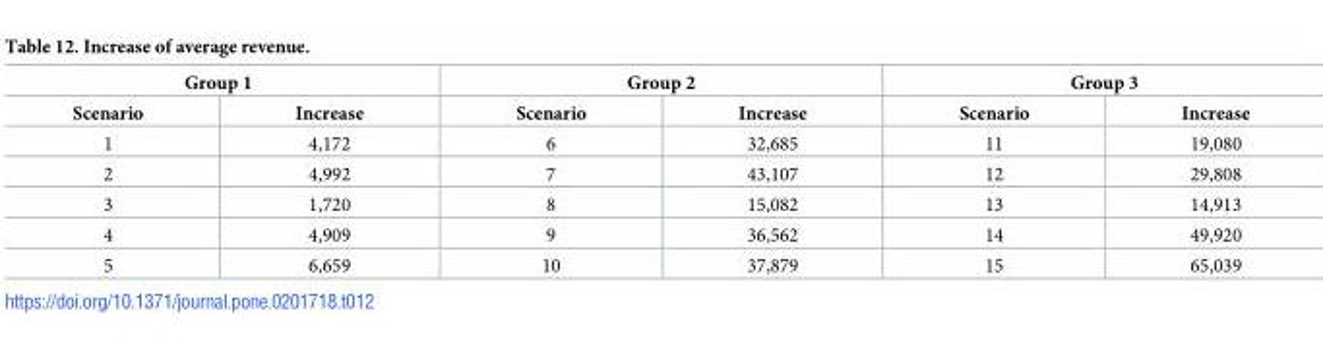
<table><thead><tr><td colspan="2">Group 1</td><td colspan="2">Group 2</td><td colspan="2">Group 3</td></tr><tr><td>Scenario</td><td>Increase</td><td>Scenario</td><td>Increase</td><td>Scenario</td><td>Increase</td></tr></thead><tbody><tr><td>1</td><td>4,172</td><td>6</td><td>32,685</td><td>11</td><td>19,080</td></tr><tr><td>2</td><td>4,992</td><td>7</td><td>43,107</td><td>12</td><td>29,808</td></tr><tr><td>3</td><td>1,720</td><td>8</td><td>15,082</td><td>13</td><td>14,913</td></tr><tr><td>4</td><td>4,909</td><td>9</td><td>36,562</td><td>14</td><td>49,920</td></tr><tr><td>5</td><td>6,659</td><td>10</td><td>37,879</td><td>15</td><td>65,039</td></tr></tbody></table>